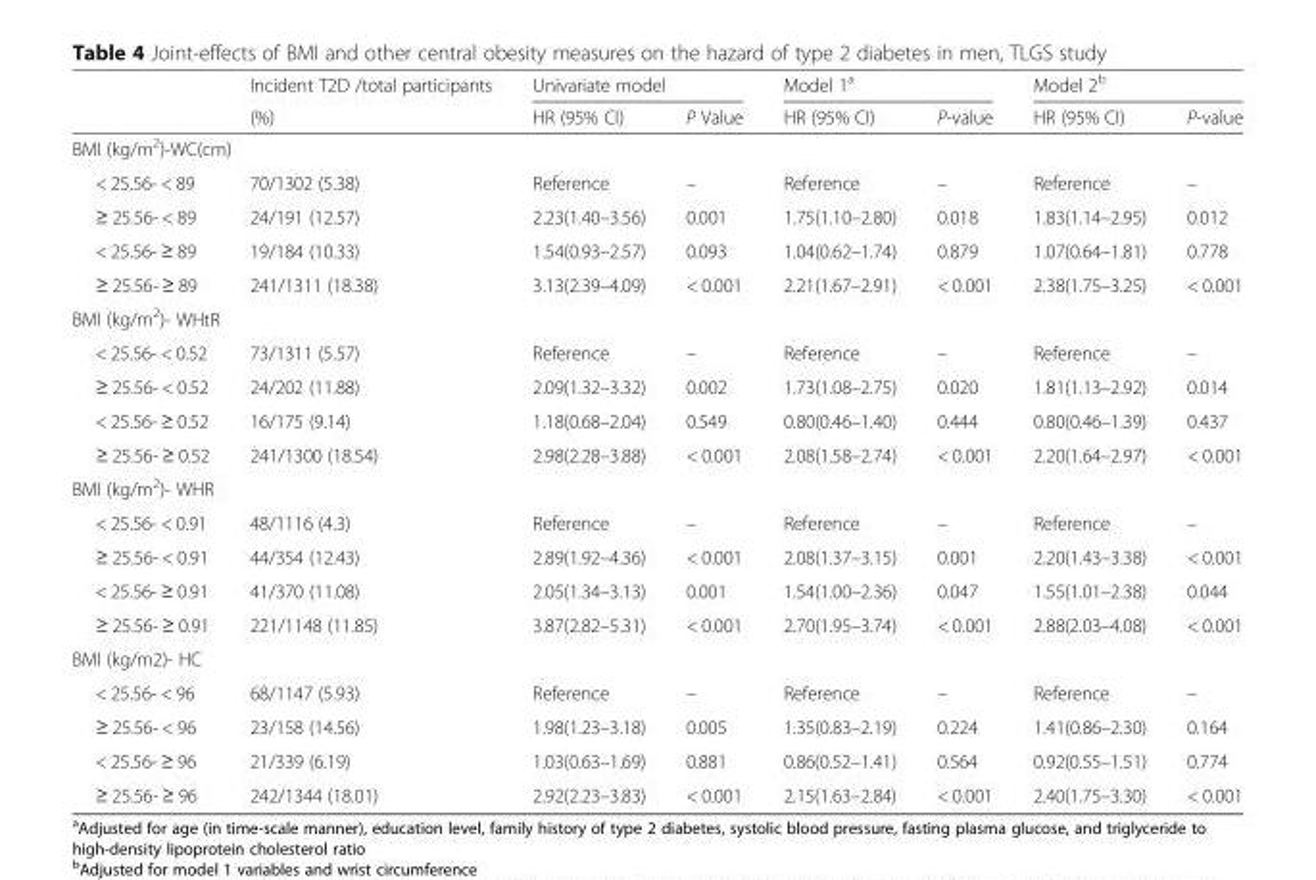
<table><thead><tr><td rowspan="2"></td><td rowspan="2">Incident T2D /total participants (%)</td><td colspan="2">Univariate model</td><td colspan="2">Model 1<sup>a</sup></td><td colspan="2">Model 2<sup>b</sup></td></tr><tr><td>HR (95% CI)</td><td>P Value</td><td>HR (95% CI)</td><td>P-value</td><td>HR (95% CI)</td><td>P-value</td></tr></thead><tbody><tr><td colspan="8">BMI (kg/m<sup>2</sup>)-WC(cm)</td></tr><tr><td>&lt; 25.56- &lt; 89</td><td>70/1302 (5.38)</td><td>Reference</td><td>–</td><td>Reference</td><td>–</td><td>Reference</td><td>–</td></tr><tr><td>≥ 25.56- &lt; 89</td><td>24/191 (12.57)</td><td>2.23(1.40–3.56)</td><td>0.001</td><td>1.75(1.10–2.80)</td><td>0.018</td><td>1.83(1.14–2.95)</td><td>0.012</td></tr><tr><td>&lt; 25.56- ≥ 89</td><td>19/184 (10.33)</td><td>1.54(0.93–2.57)</td><td>0.093</td><td>1.04(0.62–1.74)</td><td>0.879</td><td>1.07(0.64–1.81)</td><td>0.778</td></tr><tr><td>≥ 25.56- ≥ 89</td><td>241/1311 (18.38)</td><td>3.13(2.39–4.09)</td><td>&lt; 0.001</td><td>2.21(1.67–2.91)</td><td>&lt; 0.001</td><td>2.38(1.75–3.25)</td><td>&lt; 0.001</td></tr><tr><td colspan="8">BMI (kg/m<sup>2</sup>)- WHtR</td></tr><tr><td>&lt; 25.56- &lt; 0.52</td><td>73/1311 (5.57)</td><td>Reference</td><td>–</td><td>Reference</td><td>–</td><td>Reference</td><td>–</td></tr><tr><td>≥ 25.56- &lt; 0.52</td><td>24/202 (11.88)</td><td>2.09(1.32–3.32)</td><td>0.002</td><td>1.73(1.08–2.75)</td><td>0.020</td><td>1.81(1.13–2.92)</td><td>0.014</td></tr><tr><td>&lt; 25.56- ≥ 0.52</td><td>16/175 (9.14)</td><td>1.18(0.68–2.04)</td><td>0.549</td><td>0.80(0.46–1.40)</td><td>0.444</td><td>0.80(0.46–1.39)</td><td>0.437</td></tr><tr><td>≥ 25.56- ≥ 0.52</td><td>241/1300 (18.54)</td><td>2.98(2.28–3.88)</td><td>&lt; 0.001</td><td>2.08(1.58–2.74)</td><td>&lt; 0.001</td><td>2.20(1.64–2.97)</td><td>&lt; 0.001</td></tr><tr><td colspan="8">BMI (kg/m<sup>2</sup>)- WHR</td></tr><tr><td>&lt; 25.56- &lt; 0.91</td><td>48/1116 (4.3)</td><td>Reference</td><td>–</td><td>Reference</td><td>–</td><td>Reference</td><td>–</td></tr><tr><td>≥ 25.56- &lt; 0.91</td><td>44/354 (12.43)</td><td>2.89(1.92–4.36)</td><td>&lt; 0.001</td><td>2.08(1.37–3.15)</td><td>0.001</td><td>2.20(1.43–3.38)</td><td>&lt; 0.001</td></tr><tr><td>&lt; 25.56- ≥ 0.91</td><td>41/370 (11.08)</td><td>2.05(1.34–3.13)</td><td>0.001</td><td>1.54(1.00–2.36)</td><td>0.047</td><td>1.55(1.01–2.38)</td><td>0.044</td></tr><tr><td>≥ 25.56- ≥ 0.91</td><td>221/1148 (11.85)</td><td>3.87(2.82–5.31)</td><td>&lt; 0.001</td><td>2.70(1.95–3.74)</td><td>&lt; 0.001</td><td>2.88(2.03–4.08)</td><td>&lt; 0.001</td></tr><tr><td colspan="8">BMI (kg/m2)- HC</td></tr><tr><td>&lt; 25.56- &lt; 96</td><td>68/1147 (5.93)</td><td>Reference</td><td>–</td><td>Reference</td><td>–</td><td>Reference</td><td>–</td></tr><tr><td>≥ 25.56- &lt; 96</td><td>23/158 (14.56)</td><td>1.98(1.23–3.18)</td><td>0.005</td><td>1.35(0.83–2.19)</td><td>0.224</td><td>1.41(0.86–2.30)</td><td>0.164</td></tr><tr><td>&lt; 25.56- ≥ 96</td><td>21/339 (6.19)</td><td>1.03(0.63–1.69)</td><td>0.881</td><td>0.86(0.52–1.41)</td><td>0.564</td><td>0.92(0.55–1.51)</td><td>0.774</td></tr><tr><td>≥ 25.56- ≥ 96</td><td>242/1344 (18.01)</td><td>2.92(2.23–3.83)</td><td>&lt; 0.001</td><td>2.15(1.63–2.84)</td><td>&lt; 0.001</td><td>2.40(1.75–3.30)</td><td>&lt; 0.001</td></tr></tbody></table>